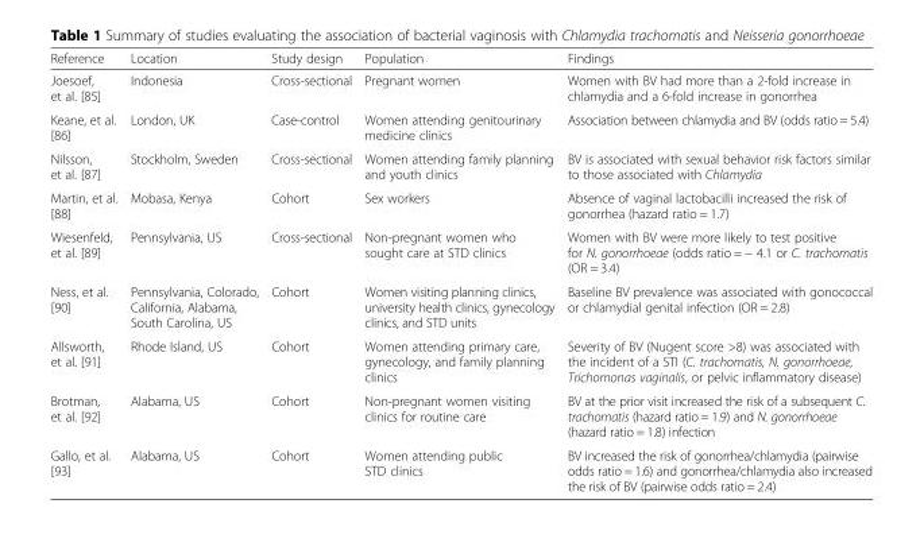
<table><thead><tr><td>Reference</td><td>Location</td><td>Study design</td><td>Population</td><td>Findings</td></tr></thead><tbody><tr><td>Joesoef, et al. [85]</td><td>Indonesia</td><td>Cross-sectional</td><td>Pregnant women</td><td>Women with BV had more than a 2-fold increase in chlamydia and a 6-fold increase in gonorrhea</td></tr><tr><td>Keane, et al. [86]</td><td>London, UK</td><td>Case-control</td><td>Women attending genitourinary medicine clinics</td><td>Association between chlamydia and BV (odds ratio = 5.4)</td></tr><tr><td>Nilsson, et al. [87]</td><td>Stockholm, Sweden</td><td>Cross-sectional</td><td>Women attending family planning and youth clinics</td><td>BV is associated with sexual behavior risk factors similar to those associated with Chlamydia</td></tr><tr><td>Martin, et al. [88]</td><td>Mobasa, Kenya</td><td>Cohort</td><td>Sex workers</td><td>Absence of vaginal lactobacilli increased the risk of gonorrhea (hazard ratio = 1.7)</td></tr><tr><td>Wiesenfeld, et al. [89]</td><td>Pennsylvania, US</td><td>Cross-sectional</td><td>Non-pregnant women who sought care at STD clinics</td><td>Women with BV were more likely to test positive for N. gonorrhoeae (odds ratio = − 4.1 or C. trachomatis (OR = 3.4)</td></tr><tr><td>Ness, et al. [90]</td><td>Pennsylvania, Colorado, California, Alabama, South Carolina, US</td><td>Cohort</td><td>Women visiting planning clinics, university health clinics, gynecology clinics, and STD units</td><td>Baseline BV prevalence was associated with gonococcal or chlamydial genital infection (OR = 2.8)</td></tr><tr><td>Allsworth, et al. [91]</td><td>Rhode Island, US</td><td>Cohort</td><td>Women attending primary care, gynecology, and family planning clinics</td><td>Severity of BV (Nugent score &gt;8) was associated with the incident of a STI (C. trachomatis, N. gonorrhoeae, Trichomonas vaginalis, or pelvic inflammatory disease)</td></tr><tr><td>Brotman, et al. [92]</td><td>Alabama, US</td><td>Cohort</td><td>Non-pregnant women visiting clinics for routine care</td><td>BV at the prior visit increased the risk of a subsequent C. trachomatis (hazard ratio = 1.9) and N. gonorrhoeae (hazard ratio = 1.8) infection</td></tr><tr><td>Gallo, et al. [93]</td><td>Alabama, US</td><td>Cohort</td><td>Women attending public STD clinics</td><td>BV increased the risk of gonorrhea/chlamydia (pairwise odds ratio = 1.6) and gonorrhea/chlamydia also increased the risk of BV (pairwise odds ratio = 2.4)</td></tr></tbody></table>